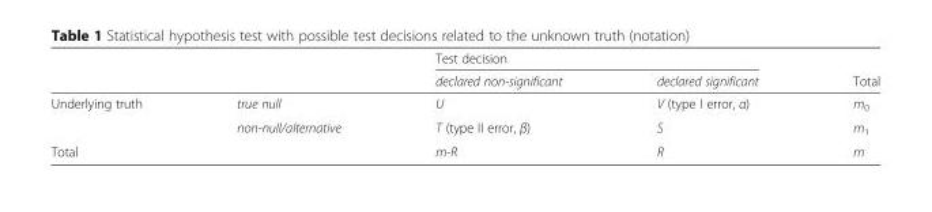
<table><thead><tr><td rowspan="2"></td><td rowspan="2"></td><td colspan="2">Test decision</td><td rowspan="2">Total</td></tr><tr><td>declared non-significant</td><td>declared significant</td></tr></thead><tbody><tr><td rowspan="2">Underlying truth</td><td>true null</td><td>U</td><td>V (type I error, α)</td><td>m<sub>0</sub></td></tr><tr><td>non-null/alternative</td><td>T (type II error, β)</td><td>S</td><td>m<sub>1</sub></td></tr><tr><td colspan="2">Total</td><td>m-R</td><td>R</td><td>m</td></tr></tbody></table>